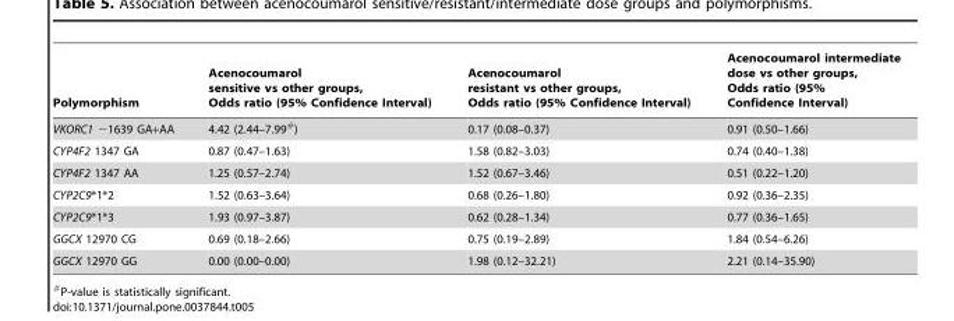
<table><thead><tr><td>Polymorphism</td><td>Acenocoumarol sensitive vs other groups, Odds ratio (95% Confidence Interval)</td><td>Acenocoumarol resistant vs other groups, Odds ratio (95% Confidence Interval)</td><td>Acenocoumarol intermediate dose vs other groups, Odds ratio (95% Confidence Interval)</td></tr></thead><tbody><tr><td>VKORC1 −1639 GA+AA</td><td>4.42 (2.44–7.99#)</td><td>0.17 (0.08–0.37)</td><td>0.91 (0.50–1.66)</td></tr><tr><td>CYP4F2 1347 GA</td><td>0.87 (0.47–1.63)</td><td>1.58 (0.82–3.03)</td><td>0.74 (0.40–1.38)</td></tr><tr><td>CYP4F2 1347 AA</td><td>1.25 (0.57–2.74)</td><td>1.52 (0.67–3.46)</td><td>0.51 (0.22–1.20)</td></tr><tr><td>CYP2C9*1*2</td><td>1.52 (0.63–3.64)</td><td>0.68 (0.26–1.80)</td><td>0.92 (0.36–2.35)</td></tr><tr><td>CYP2C9*1*3</td><td>1.93 (0.97–3.87)</td><td>0.62 (0.28–1.34)</td><td>0.77 (0.36–1.65)</td></tr><tr><td>GGCX 12970 CG</td><td>0.69 (0.18–2.66)</td><td>0.75 (0.19–2.89)</td><td>1.84 (0.54–6.26)</td></tr><tr><td>GGCX 12970 GG</td><td>0.00 (0.00–0.00)</td><td>1.98 (0.12–32.21)</td><td>2.21 (0.14–35.90)</td></tr></tbody></table>